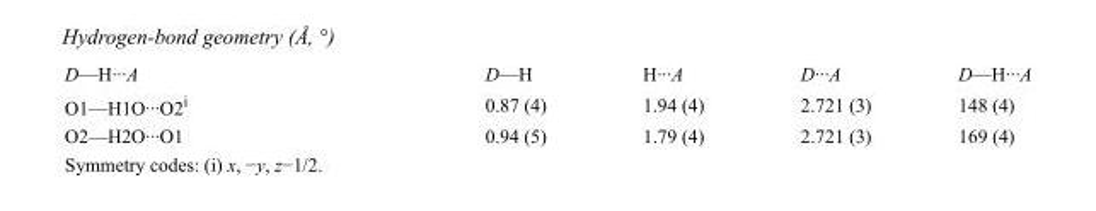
<table><tbody><tr><td>D—H···A</td><td>D—H</td><td>H···A</td><td>D···A</td><td>D—H···A</td></tr><tr><td>O1—H1O···O2<sup>i</sup></td><td>0.87 (4)</td><td>1.94 (4)</td><td>2.721 (3)</td><td>148 (4)</td></tr><tr><td>O2—H2O···O1</td><td>0.94 (5)</td><td>1.79 (4)</td><td>2.721 (3)</td><td>169 (4)</td></tr></tbody></table>